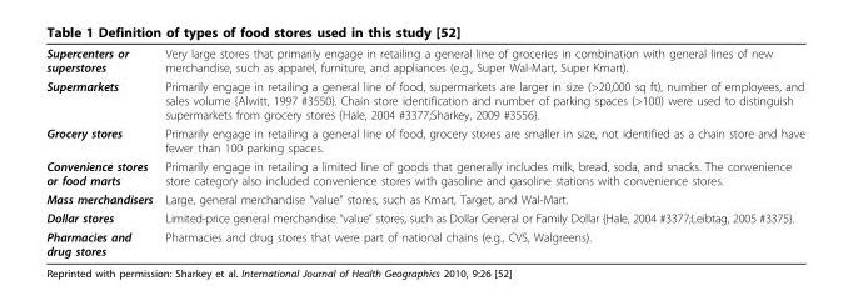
<table><tbody><tr><td>Supercenters or superstores</td><td>Very large stores that primarily engage in retailing a general line of groceries in combination with general lines of new merchandise, such as apparel, furniture, and appliances (e.g., Super Wal-Mart, Super Kmart).</td></tr><tr><td>Supermarkets</td><td>Primarily engage in retailing a general line of food, supermarkets are larger in size (&gt;20,000 sq ft), number of employees, and sales volume {Alwitt, 1997 #3550}. Chain store identification and number of parking spaces (&gt;100) were used to distinguish supermarkets from grocery stores {Hale, 2004 #3377;Sharkey, 2009 #3556}.</td></tr><tr><td>Grocery stores</td><td>Primarily engage in retailing a general line of food, grocery stores are smaller in size, not identified as a chain store and have fewer than 100 parking spaces.</td></tr><tr><td>Convenience stores or food marts</td><td>Primarily engage in retailing a limited line of goods that generally includes milk, bread, soda, and snacks. The convenience store category also included convenience stores with gasoline and gasoline stations with convenience stores.</td></tr><tr><td>Mass merchandisers</td><td>Large, general merchandise “value” stores, such as Kmart, Target, and Wal-Mart.</td></tr><tr><td>Dollar stores</td><td>Limited-price general merchandise “value” stores, such as Dollar General or Family Dollar {Hale, 2004 #3377;Leibtag, 2005 #3375}.</td></tr><tr><td>Pharmacies and drug stores</td><td>Pharmacies and drug stores that were part of national chains (e.g., CVS, Walgreens).</td></tr></tbody></table>